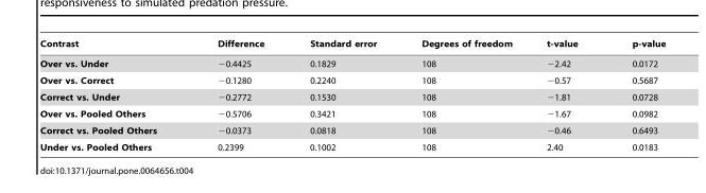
<table><thead><tr><td>Contrast</td><td>Difference</td><td>Standard error</td><td>Degrees of freedom</td><td>t-value</td><td>p-value</td></tr></thead><tbody><tr><td>Over vs. Under</td><td>−0.4425</td><td>0.1829</td><td>108</td><td>−2.42</td><td>0.0172</td></tr><tr><td>Over vs. Correct</td><td>−0.1280</td><td>0.2240</td><td>108</td><td>−0.57</td><td>0.5687</td></tr><tr><td>Correct vs. Under</td><td>−0.2772</td><td>0.1530</td><td>108</td><td>−1.81</td><td>0.0728</td></tr><tr><td>Over vs. Pooled Others</td><td>−0.5706</td><td>0.3421</td><td>108</td><td>−1.67</td><td>0.0982</td></tr><tr><td>Correct vs. Pooled Others</td><td>−0.0373</td><td>0.0818</td><td>108</td><td>−0.46</td><td>0.6493</td></tr><tr><td>Under vs. Pooled Others</td><td>0.2399</td><td>0.1002</td><td>108</td><td>2.40</td><td>0.0183</td></tr></tbody></table>